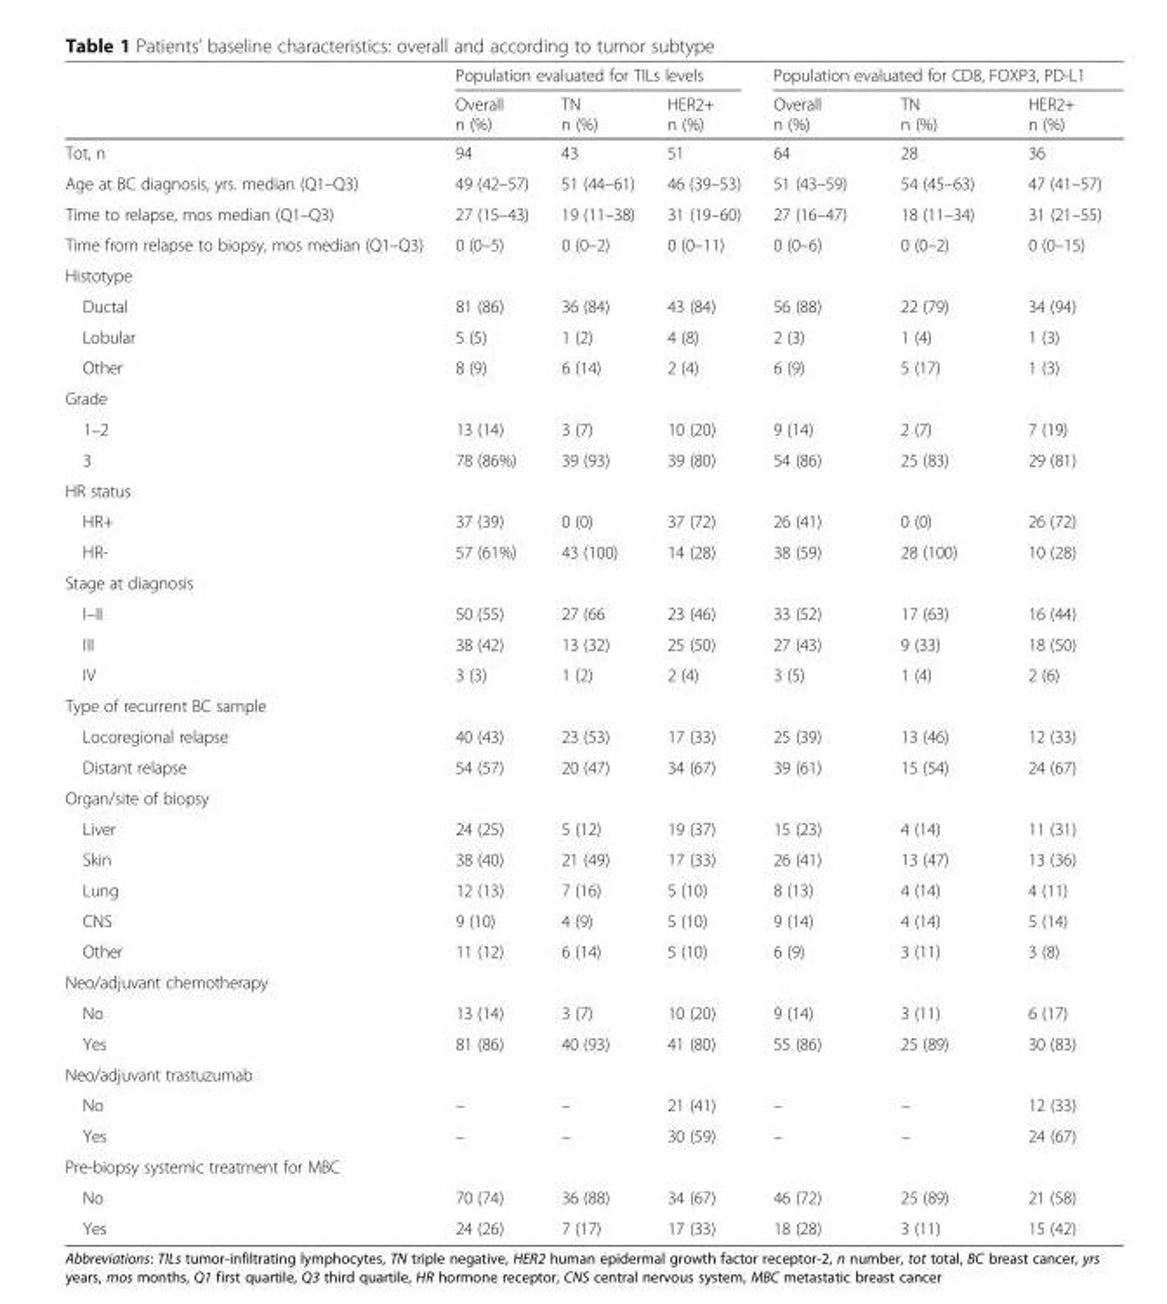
<table><thead><tr><td rowspan="2"></td><td colspan="3">Population evaluated for TILs levels</td><td colspan="3">Population evaluated for CD8, FOXP3, PD-L1</td></tr><tr><td>Overall n (%)</td><td>TN n (%)</td><td>HER2+ n (%)</td><td>Overall n (%)</td><td>TN n (%)</td><td>HER2+ n (%)</td></tr></thead><tbody><tr><td>Tot, n</td><td>94</td><td>43</td><td>51</td><td>64</td><td>28</td><td>36</td></tr><tr><td>Age at BC diagnosis, yrs. median (Q1–Q3)</td><td>49 (42–57)</td><td>51 (44–61)</td><td>46 (39–53)</td><td>51 (43–59)</td><td>54 (45–63)</td><td>47 (41–57)</td></tr><tr><td>Time to relapse, mos median (Q1–Q3)</td><td>27 (15–43)</td><td>19 (11–38)</td><td>31 (19–60)</td><td>27 (16–47)</td><td>18 (11–34)</td><td>31 (21–55)</td></tr><tr><td>Time from relapse to biopsy, mos median (Q1–Q3)</td><td>0 (0–5)</td><td>0 (0–2)</td><td>0 (0–11)</td><td>0 (0–6)</td><td>0 (0–2)</td><td>0 (0–15)</td></tr><tr><td colspan="7">Histotype</td></tr><tr><td>Ductal</td><td>81 (86)</td><td>36 (84)</td><td>43 (84)</td><td>56 (88)</td><td>22 (79)</td><td>34 (94)</td></tr><tr><td>Lobular</td><td>5 (5)</td><td>1 (2)</td><td>4 (8)</td><td>2 (3)</td><td>1 (4)</td><td>1 (3)</td></tr><tr><td>Other</td><td>8 (9)</td><td>6 (14)</td><td>2 (4)</td><td>6 (9)</td><td>5 (17)</td><td>1 (3)</td></tr><tr><td colspan="7">Grade</td></tr><tr><td>1–2</td><td>13 (14)</td><td>3 (7)</td><td>10 (20)</td><td>9 (14)</td><td>2 (7)</td><td>7 (19)</td></tr><tr><td>3</td><td>78 (86%)</td><td>39 (93)</td><td>39 (80)</td><td>54 (86)</td><td>25 (83)</td><td>29 (81)</td></tr><tr><td colspan="7">HR status</td></tr><tr><td>HR+</td><td>37 (39)</td><td>0 (0)</td><td>37 (72)</td><td>26 (41)</td><td>0 (0)</td><td>26 (72)</td></tr><tr><td>HR-</td><td>57 (61%)</td><td>43 (100)</td><td>14 (28)</td><td>38 (59)</td><td>28 (100)</td><td>10 (28)</td></tr><tr><td colspan="7">Stage at diagnosis</td></tr><tr><td>I–II</td><td>50 (55)</td><td>27 (66</td><td>23 (46)</td><td>33 (52)</td><td>17 (63)</td><td>16 (44)</td></tr><tr><td>III</td><td>38 (42)</td><td>13 (32)</td><td>25 (50)</td><td>27 (43)</td><td>9 (33)</td><td>18 (50)</td></tr><tr><td>IV</td><td>3 (3)</td><td>1 (2)</td><td>2 (4)</td><td>3 (5)</td><td>1 (4)</td><td>2 (6)</td></tr><tr><td colspan="7">Type of recurrent BC sample</td></tr><tr><td>Locoregional relapse</td><td>40 (43)</td><td>23 (53)</td><td>17 (33)</td><td>25 (39)</td><td>13 (46)</td><td>12 (33)</td></tr><tr><td>Distant relapse</td><td>54 (57)</td><td>20 (47)</td><td>34 (67)</td><td>39 (61)</td><td>15 (54)</td><td>24 (67)</td></tr><tr><td colspan="7">Organ/site of biopsy</td></tr><tr><td>Liver</td><td>24 (25)</td><td>5 (12)</td><td>19 (37)</td><td>15 (23)</td><td>4 (14)</td><td>11 (31)</td></tr><tr><td>Skin</td><td>38 (40)</td><td>21 (49)</td><td>17 (33)</td><td>26 (41)</td><td>13 (47)</td><td>13 (36)</td></tr><tr><td>Lung</td><td>12 (13)</td><td>7 (16)</td><td>5 (10)</td><td>8 (13)</td><td>4 (14)</td><td>4 (11)</td></tr><tr><td>CNS</td><td>9 (10)</td><td>4 (9)</td><td>5 (10)</td><td>9 (14)</td><td>4 (14)</td><td>5 (14)</td></tr><tr><td>Other</td><td>11 (12)</td><td>6 (14)</td><td>5 (10)</td><td>6 (9)</td><td>3 (11)</td><td>3 (8)</td></tr><tr><td colspan="7">Neo/adjuvant chemotherapy</td></tr><tr><td>No</td><td>13 (14)</td><td>3 (7)</td><td>10 (20)</td><td>9 (14)</td><td>3 (11)</td><td>6 (17)</td></tr><tr><td>Yes</td><td>81 (86)</td><td>40 (93)</td><td>41 (80)</td><td>55 (86)</td><td>25 (89)</td><td>30 (83)</td></tr><tr><td colspan="7">Neo/adjuvant trastuzumab</td></tr><tr><td>No</td><td>–</td><td>–</td><td>21 (41)</td><td>–</td><td>–</td><td>12 (33)</td></tr><tr><td>Yes</td><td>–</td><td>–</td><td>30 (59)</td><td>–</td><td>–</td><td>24 (67)</td></tr><tr><td colspan="7">Pre-biopsy systemic treatment for MBC</td></tr><tr><td>No</td><td>70 (74)</td><td>36 (88)</td><td>34 (67)</td><td>46 (72)</td><td>25 (89)</td><td>21 (58)</td></tr><tr><td>Yes</td><td>24 (26)</td><td>7 (17)</td><td>17 (33)</td><td>18 (28)</td><td>3 (11)</td><td>15 (42)</td></tr></tbody></table>